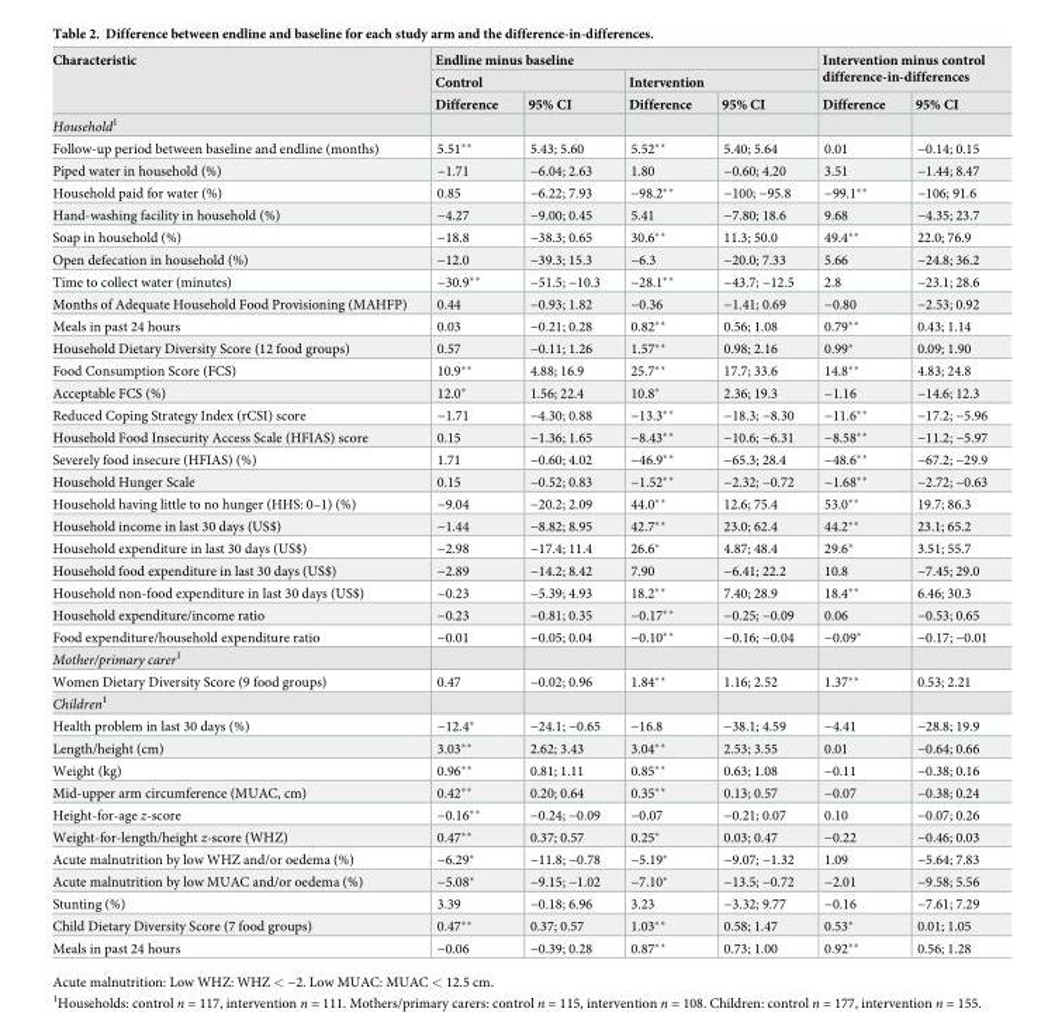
<table><thead><tr><td rowspan="3">Characteristic</td><td colspan="4">Endline minus baseline</td><td rowspan="2" colspan="2">Intervention minus control difference-in-differences</td></tr><tr><td colspan="2">Control</td><td colspan="2">Intervention</td></tr><tr><td>Difference</td><td>95% CI</td><td>Difference</td><td>95% CI</td><td>Difference</td><td>95% CI</td></tr></thead><tbody><tr><td colspan="7">Household<sup>1</sup></td></tr><tr><td>Follow-up period between baseline and endline (months)</td><td>5.51**</td><td>5.43; 5.60</td><td>5.52**</td><td>5.40; 5.64</td><td>0.01</td><td>−0.14; 0.15</td></tr><tr><td>Piped water in household (%)</td><td>−1.71</td><td>−6.04; 2.63</td><td>1.80</td><td>−0.60; 4.20</td><td>3.51</td><td>−1.44; 8.47</td></tr><tr><td>Household paid for water (%)</td><td>0.85</td><td>−6.22; 7.93</td><td>−98.2**</td><td>−100; −95.8</td><td>−99.1**</td><td>−106; 91.6</td></tr><tr><td>Hand-washing facility in household (%)</td><td>−4.27</td><td>−9.00; 0.45</td><td>5.41</td><td>−7.80; 18.6</td><td>9.68</td><td>−4.35; 23.7</td></tr><tr><td>Soap in household (%)</td><td>−18.8</td><td>−38.3; 0.65</td><td>30.6**</td><td>11.3; 50.0</td><td>49.4**</td><td>22.0; 76.9</td></tr><tr><td>Open defecation in household (%)</td><td>−12.0</td><td>−39.3; 15.3</td><td>−6.3</td><td>−20.0; 7.33</td><td>5.66</td><td>−24.8; 36.2</td></tr><tr><td>Time to collect water (minutes)</td><td>−30.9**</td><td>−51.5; −10.3</td><td>−28.1**</td><td>−43.7; −12.5</td><td>2.8</td><td>−23.1; 28.6</td></tr><tr><td>Months of Adequate Household Food Provisioning (MAHFP)</td><td>0.44</td><td>−0.93; 1.82</td><td>−0.36</td><td>−1.41; 0.69</td><td>−0.80</td><td>−2.53; 0.92</td></tr><tr><td>Meals in past 24 hours</td><td>0.03</td><td>−0.21; 0.28</td><td>0.82**</td><td>0.56; 1.08</td><td>0.79**</td><td>0.43; 1.14</td></tr><tr><td>Household Dietary Diversity Score (12 food groups)</td><td>0.57</td><td>−0.11; 1.26</td><td>1.57**</td><td>0.98; 2.16</td><td>0.99*</td><td>0.09; 1.90</td></tr><tr><td>Food Consumption Score (FCS)</td><td>10.9**</td><td>4.88; 16.9</td><td>25.7**</td><td>17.7; 33.6</td><td>14.8**</td><td>4.83; 24.8</td></tr><tr><td>Acceptable FCS (%)</td><td>12.0*</td><td>1.56; 22.4</td><td>10.8*</td><td>2.36; 19.3</td><td>−1.16</td><td>−14.6; 12.3</td></tr><tr><td>Reduced Coping Strategy Index (rCSI) score</td><td>−1.71</td><td>−4.30; 0.88</td><td>−13.3**</td><td>−18.3; −8.30</td><td>−11.6**</td><td>−17.2; −5.96</td></tr><tr><td>Household Food Insecurity Access Scale (HFIAS) score</td><td>0.15</td><td>−1.36; 1.65</td><td>−8.43**</td><td>−10.6; −6.31</td><td>−8.58**</td><td>−11.2; −5.97</td></tr><tr><td>Severely food insecure (HFIAS) (%)</td><td>1.71</td><td>−0.60; 4.02</td><td>−46.9**</td><td>−65.3; 28.4</td><td>−48.6**</td><td>−67.2; −29.9</td></tr><tr><td>Household Hunger Scale</td><td>0.15</td><td>−0.52; 0.83</td><td>−1.52**</td><td>−2.32; −0.72</td><td>−1.68**</td><td>−2.72; −0.63</td></tr><tr><td>Household having little to no hunger (HHS: 0–1) (%)</td><td>−9.04</td><td>−20.2; 2.09</td><td>44.0**</td><td>12.6; 75.4</td><td>53.0**</td><td>19.7; 86.3</td></tr><tr><td>Household income in last 30 days (US$)</td><td>−1.44</td><td>−8.82; 8.95</td><td>42.7**</td><td>23.0; 62.4</td><td>44.2**</td><td>23.1; 65.2</td></tr><tr><td>Household expenditure in last 30 days (US$)</td><td>−2.98</td><td>−17.4; 11.4</td><td>26.6*</td><td>4.87; 48.4</td><td>29.6*</td><td>3.51; 55.7</td></tr><tr><td>Household food expenditure in last 30 days (US$)</td><td>−2.89</td><td>−14.2; 8.42</td><td>7.90</td><td>−6.41; 22.2</td><td>10.8</td><td>−7.45; 29.0</td></tr><tr><td>Household non-food expenditure in last 30 days (US$)</td><td>−0.23</td><td>−5.39; 4.93</td><td>18.2**</td><td>7.40; 28.9</td><td>18.4**</td><td>6.46; 30.3</td></tr><tr><td>Household expenditure/income ratio</td><td>−0.23</td><td>−0.81; 0.35</td><td>−0.17**</td><td>−0.25; −0.09</td><td>0.06</td><td>−0.53; 0.65</td></tr><tr><td>Food expenditure/household expenditure ratio</td><td>−0.01</td><td>−0.05; 0.04</td><td>−0.10**</td><td>−0.16; −0.04</td><td>−0.09*</td><td>−0.17; −0.01</td></tr><tr><td colspan="7">Mother/primary carer<sup>1</sup></td></tr><tr><td>Women Dietary Diversity Score (9 food groups)</td><td>0.47</td><td>−0.02; 0.96</td><td>1.84**</td><td>1.16; 2.52</td><td>1.37**</td><td>0.53; 2.21</td></tr><tr><td colspan="7">Children<sup>1</sup></td></tr><tr><td>Health problem in last 30 days (%)</td><td>−12.4*</td><td>−24.1; −0.65</td><td>−16.8</td><td>−38.1; 4.59</td><td>−4.41</td><td>−28.8; 19.9</td></tr><tr><td>Length/height (cm)</td><td>3.03**</td><td>2.62; 3.43</td><td>3.04**</td><td>2.53; 3.55</td><td>0.01</td><td>−0.64; 0.66</td></tr><tr><td>Weight (kg)</td><td>0.96**</td><td>0.81; 1.11</td><td>0.85**</td><td>0.63; 1.08</td><td>−0.11</td><td>−0.38; 0.16</td></tr><tr><td>Mid-upper arm circumference (MUAC, cm)</td><td>0.42**</td><td>0.20; 0.64</td><td>0.35**</td><td>0.13; 0.57</td><td>−0.07</td><td>−0.38; 0.24</td></tr><tr><td>Height-for-age z-score</td><td>−0.16**</td><td>−0.24; −0.09</td><td>−0.07</td><td>−0.21; 0.07</td><td>0.10</td><td>−0.07; 0.26</td></tr><tr><td>Weight-for-length/height z-score (WHZ)</td><td>0.47**</td><td>0.37; 0.57</td><td>0.25*</td><td>0.03; 0.47</td><td>−0.22</td><td>−0.46; 0.03</td></tr><tr><td>Acute malnutrition by low WHZ and/or oedema (%)</td><td>−6.29*</td><td>−11.8; −0.78</td><td>−5.19*</td><td>−9.07; −1.32</td><td>1.09</td><td>−5.64; 7.83</td></tr><tr><td>Acute malnutrition by low MUAC and/or oedema (%)</td><td>−5.08*</td><td>−9.15; −1.02</td><td>−7.10*</td><td>−13.5; −0.72</td><td>−2.01</td><td>−9.58; 5.56</td></tr><tr><td>Stunting (%)</td><td>3.39</td><td>−0.18; 6.96</td><td>3.23</td><td>−3.32; 9.77</td><td>−0.16</td><td>−7.61; 7.29</td></tr><tr><td>Child Dietary Diversity Score (7 food groups)</td><td>0.47**</td><td>0.37; 0.57</td><td>1.03**</td><td>0.58; 1.47</td><td>0.53*</td><td>0.01; 1.05</td></tr><tr><td>Meals in past 24 hours</td><td>−0.06</td><td>−0.39; 0.28</td><td>0.87**</td><td>0.73; 1.00</td><td>0.92**</td><td>0.56; 1.28</td></tr></tbody></table>